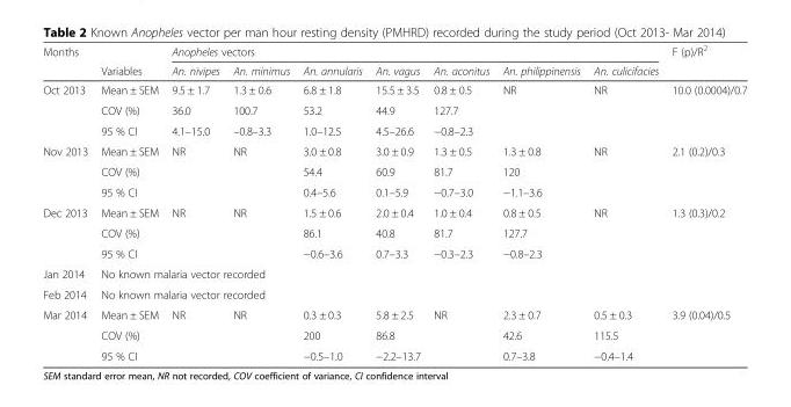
<table><thead><tr><td rowspan="2">Months</td><td rowspan="2">Variables</td><td colspan="7">Anopheles vectors</td><td rowspan="2">F (p)/R<sup>2</sup></td></tr><tr><td>An. nivipes</td><td>An. minimus</td><td>An. annularis</td><td>An. vagus</td><td>An. aconitus</td><td>An. philippinensis</td><td>An. culicifacies</td></tr></thead><tbody><tr><td rowspan="3">Oct 2013</td><td>Mean ± SEM</td><td>9.5 ± 1.7</td><td>1.3 ± 0.6</td><td>6.8 ± 1.8</td><td>15.5 ± 3.5</td><td>0.8 ± 0.5</td><td>NR</td><td>NR</td><td>10.0 (0.0004)/0.7</td></tr><tr><td>COV (%)</td><td>36.0</td><td>100.7</td><td>53.2</td><td>44.9</td><td>127.7</td><td></td><td></td><td></td></tr><tr><td>95 % CI</td><td>4.1–15.0</td><td>–0.8–3.3</td><td>1.0–12.5</td><td>4.5–26.6</td><td>−0.8–2.3</td><td></td><td></td><td></td></tr><tr><td rowspan="3">Nov 2013</td><td>Mean ± SEM</td><td rowspan="3">NR</td><td rowspan="3">NR</td><td>3.0 ± 0.8</td><td>3.0 ± 0.9</td><td>1.3 ± 0.5</td><td>1.3 ± 0.8</td><td>NR</td><td>2.1 (0.2)/0.3</td></tr><tr><td>COV (%)</td><td>54.4</td><td>60.9</td><td>81.7</td><td>120</td><td></td><td></td></tr><tr><td>95 % CI</td><td>0.4–5.6</td><td>0.1–5.9</td><td>−0.7–3.0</td><td>−1.1–3.6</td><td></td><td></td></tr><tr><td rowspan="3">Dec 2013</td><td>Mean ± SEM</td><td rowspan="3">NR</td><td rowspan="3">NR</td><td>1.5 ± 0.6</td><td>2.0 ± 0.4</td><td>1.0 ± 0.4</td><td>0.8 ± 0.5</td><td>NR</td><td>1.3 (0.3)/0.2</td></tr><tr><td>COV (%)</td><td>86.1</td><td>40.8</td><td>81.7</td><td>127.7</td><td></td><td></td></tr><tr><td>95 % CI</td><td>−0.6–3.6</td><td>0.7–3.3</td><td>−0.3–2.3</td><td>−0.8–2.3</td><td></td><td></td></tr><tr><td>Jan 2014</td><td colspan="9">No known malaria vector recorded</td></tr><tr><td>Feb 2014</td><td colspan="9">No known malaria vector recorded</td></tr><tr><td rowspan="3">Mar 2014</td><td>Mean ± SEM</td><td>NR</td><td>NR</td><td>0.3 ± 0.3</td><td>5.8 ± 2.5</td><td>NR</td><td>2.3 ± 0.7</td><td>0.5 ± 0.3</td><td>3.9 (0.04)/0.5</td></tr><tr><td>COV (%)</td><td></td><td></td><td>200</td><td>86.8</td><td></td><td>42.6</td><td>115.5</td><td></td></tr><tr><td>95 % CI</td><td></td><td></td><td>−0.5–1.0</td><td>−2.2–13.7</td><td></td><td>0.7–3.8</td><td>−0.4–1.4</td><td></td></tr></tbody></table>